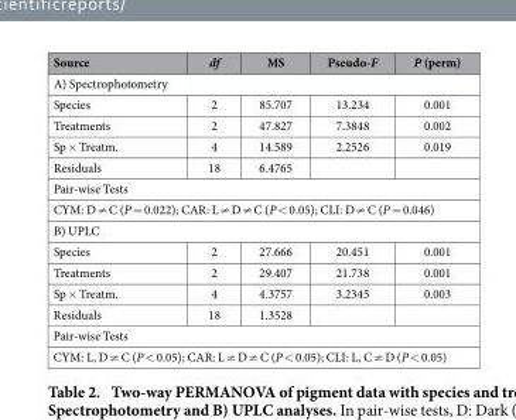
<table><thead><tr><td>Source</td><td>df</td><td>MS</td><td>Pseudo-F</td><td>P (perm)</td></tr></thead><tbody><tr><td colspan="5">A) Spectrophotometry</td></tr><tr><td>Species</td><td>2</td><td>85.707</td><td>13.234</td><td>0.001</td></tr><tr><td>Treatments</td><td>2</td><td>47.827</td><td>7.3848</td><td>0.002</td></tr><tr><td>Sp × Treatm.</td><td>4</td><td>14.589</td><td>2.2526</td><td>0.019</td></tr><tr><td>Residuals</td><td>18</td><td>6.4765</td><td></td><td></td></tr><tr><td colspan="5">Pair-wise Tests</td></tr><tr><td colspan="5">CYM: D ≠ C (P = 0.022); CAR: L ≠ D ≠ C (P &lt; 0.05); CLI: D ≠ C (P = 0.046)</td></tr><tr><td colspan="5">B) UPLC</td></tr><tr><td>Species</td><td>2</td><td>27.666</td><td>20.451</td><td>0.001</td></tr><tr><td>Treatments</td><td>2</td><td>29.407</td><td>21.738</td><td>0.001</td></tr><tr><td>Sp × Treatm.</td><td>4</td><td>4.3757</td><td>3.2345</td><td>0.003</td></tr><tr><td>Residuals</td><td>18</td><td>1.3528</td><td></td><td></td></tr><tr><td colspan="5">Pair-wise Tests</td></tr><tr><td colspan="5">CYM: L, D ≠ C (P &lt; 0.05); CAR: L ≠ D ≠ C (P &lt; 0.05); CLI: L, C ≠ D (P &lt; 0.05)</td></tr></tbody></table>